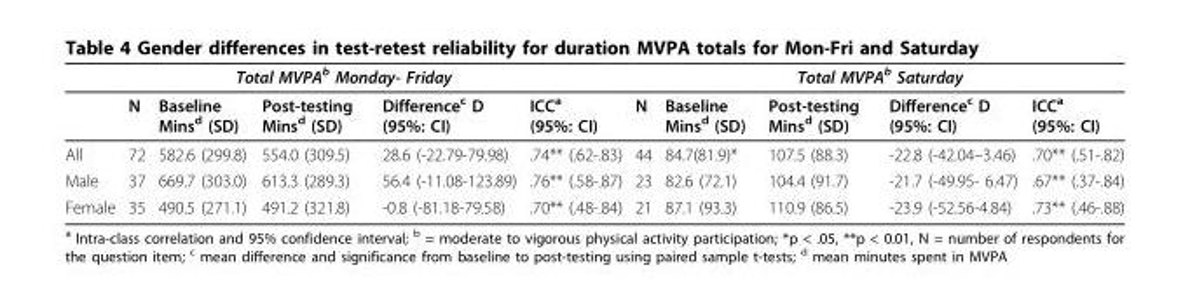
<table><thead><tr><td colspan="6">Total MVPAb Monday- Friday</td><td colspan="5">Total MVPAb Saturday</td></tr><tr><td></td><td>N</td><td>Baseline Mins<sup>d</sup> (SD)</td><td>Post-testing Mins<sup>d</sup> (SD)</td><td>Difference<sup>c</sup> D (95%: CI)</td><td>ICC<sup>a</sup> (95%: CI)</td><td>N</td><td>Baseline Mins<sup>d</sup> (SD)</td><td>Post-testing Mins<sup>d</sup> (SD)</td><td>Difference<sup>c</sup> D (95%: CI)</td><td>ICC<sup>a</sup> (95%: CI)</td></tr></thead><tbody><tr><td>All</td><td>72</td><td>582.6 (299.8)</td><td>554.0 (309.5)</td><td>28.6 (-22.79-79.98)</td><td>.74** (.62-.83)</td><td>44</td><td>84.7(81.9)*</td><td>107.5 (88.3)</td><td>-22.8 (-42.04–3.46)</td><td>.70** (.51-.82)</td></tr><tr><td>Male</td><td>37</td><td>669.7 (303.0)</td><td>613.3 (289.3)</td><td>56.4 (-11.08-123.89)</td><td>.76** (.58-.87)</td><td>23</td><td>82.6 (72.1)</td><td>104.4 (91.7)</td><td>-21.7 (-49.95- 6.47)</td><td>.67** (.37-.84)</td></tr><tr><td>Female</td><td>35</td><td>490.5 (271.1)</td><td>491.2 (321.8)</td><td>-0.8 (-81.18-79.58)</td><td>.70** (.48-.84)</td><td>21</td><td>87.1 (93.3)</td><td>110.9 (86.5)</td><td>-23.9 (-52.56-4.84)</td><td>.73** (.46-.88)</td></tr></tbody></table>